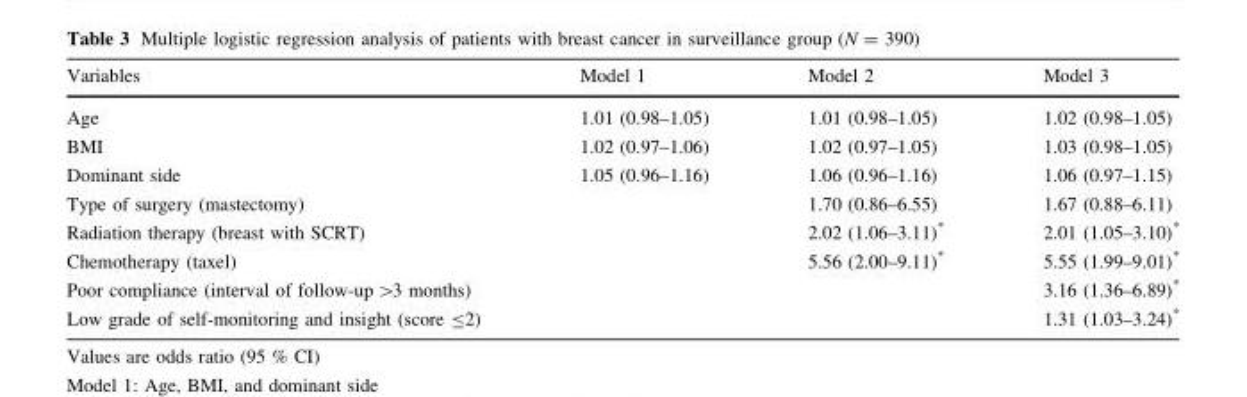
<table><thead><tr><td>Variables</td><td>Model 1</td><td>Model 2</td><td>Model 3</td></tr></thead><tbody><tr><td>Age</td><td>1.01 (0.98–1.05)</td><td>1.01 (0.98–1.05)</td><td>1.02 (0.98–1.05)</td></tr><tr><td>BMI</td><td>1.02 (0.97–1.06)</td><td>1.02 (0.97–1.05)</td><td>1.03 (0.98–1.05)</td></tr><tr><td>Dominant side</td><td>1.05 (0.96–1.16)</td><td>1.06 (0.96–1.16)</td><td>1.06 (0.97–1.15)</td></tr><tr><td>Type of surgery (mastectomy)</td><td></td><td>1.70 (0.86–6.55)</td><td>1.67 (0.88–6.11)</td></tr><tr><td>Radiation therapy (breast with SCRT)</td><td></td><td>2.02 (1.06–3.11)*</td><td>2.01 (1.05–3.10)*</td></tr><tr><td>Chemotherapy (taxel)</td><td></td><td>5.56 (2.00–9.11)*</td><td>5.55 (1.99–9.01)*</td></tr><tr><td>Poor compliance (interval of follow-up &gt;3 months)</td><td></td><td></td><td>3.16 (1.36–6.89)*</td></tr><tr><td>Low grade of self-monitoring and insight (score ≤2)</td><td></td><td></td><td>1.31 (1.03–3.24)*</td></tr></tbody></table>